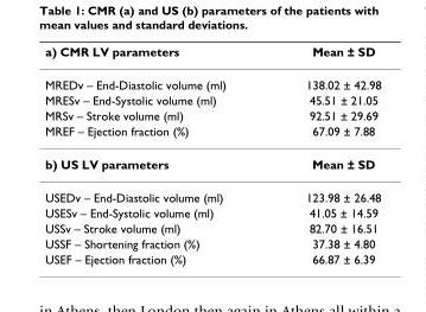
<table><thead><tr><td>a) CMR LV parameters</td><td>Mean ± SD</td></tr></thead><tbody><tr><td>MREDv – End-Diastolic volume (ml)</td><td>138.02 ± 42.98</td></tr><tr><td>MRESv – End-Systolic volume (ml)</td><td>45.51 ± 21.05</td></tr><tr><td>MRSv – Stroke volume (ml)</td><td>92.51 ± 29.69</td></tr><tr><td>MREF – Ejection fraction (%)</td><td>67.09 ± 7.88</td></tr><tr><td>b) US LV parameters</td><td>Mean ± SD</td></tr><tr><td>USEDv – End-Diastolic volume (ml)</td><td>123.98 ± 26.48</td></tr><tr><td>USESv – End-Systolic volume (ml)</td><td>41.05 ± 14.59</td></tr><tr><td>USSv – Stroke volume (ml)</td><td>82.70 ± 16.51</td></tr><tr><td>USSF – Shortening fraction (%)</td><td>37.38 ± 4.80</td></tr><tr><td>USEF – Ejection fraction (%)</td><td>66.87 ± 6.39</td></tr></tbody></table>